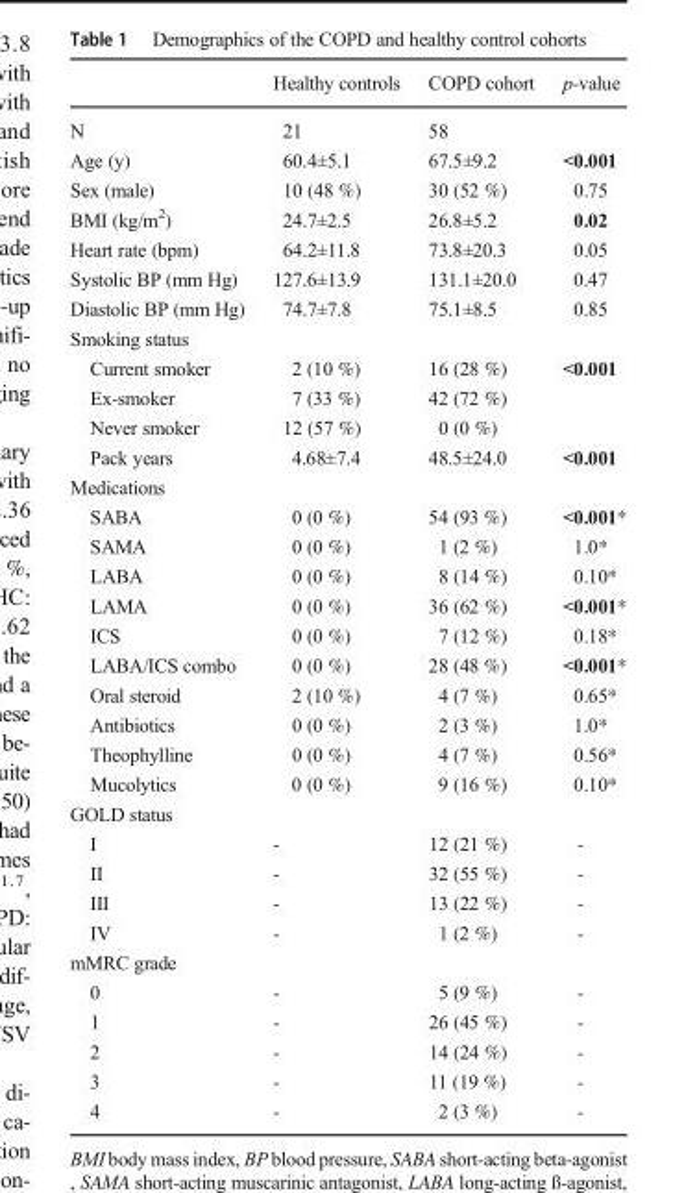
<table><thead><tr><td></td><td>Healthy controls</td><td>COPD cohort</td><td>p-value</td></tr></thead><tbody><tr><td>N</td><td>21</td><td>58</td><td></td></tr><tr><td>Age (y)</td><td>60.4±5.1</td><td>67.5±9.2</td><td>&lt;0.001</td></tr><tr><td>Sex (male)</td><td>10 (48 %)</td><td>30 (52 %)</td><td>0.75</td></tr><tr><td>BMI (kg/m<sup>2</sup>)</td><td>24.7±2.5</td><td>26.8±5.2</td><td>0.02</td></tr><tr><td>Heart rate (bpm)</td><td>64.2±11.8</td><td>73.8±20.3</td><td>0.05</td></tr><tr><td>Systolic BP (mm Hg)</td><td>127.6±13.9</td><td>131.1±20.0</td><td>0.47</td></tr><tr><td>Diastolic BP (mm Hg)</td><td>74.7±7.8</td><td>75.1±8.5</td><td>0.85</td></tr><tr><td colspan="4">Smoking status</td></tr><tr><td>Current smoker</td><td>2 (10 %)</td><td>16 (28 %)</td><td>&lt;0.001</td></tr><tr><td>Ex-smoker</td><td>7 (33 %)</td><td>42 (72 %)</td><td></td></tr><tr><td>Never smoker</td><td>12 (57 %)</td><td>0 (0 %)</td><td></td></tr><tr><td>Pack years</td><td>4.68±7.4</td><td>48.5±24.0</td><td>&lt;0.001</td></tr><tr><td colspan="4">Medications</td></tr><tr><td>SABA</td><td>0 (0 %)</td><td>54 (93 %)</td><td>&lt;0.001*</td></tr><tr><td>SAMA</td><td>0 (0 %)</td><td>1 (2 %)</td><td>1.0*</td></tr><tr><td>LABA</td><td>0 (0 %)</td><td>8 (14 %)</td><td>0.10*</td></tr><tr><td>LAMA</td><td>0 (0 %)</td><td>36 (62 %)</td><td>&lt;0.001*</td></tr><tr><td>ICS</td><td>0 (0 %)</td><td>7 (12 %)</td><td>0.18*</td></tr><tr><td>LABA/ICS combo</td><td>0 (0 %)</td><td>28 (48 %)</td><td>&lt;0.001*</td></tr><tr><td>Oral steroid</td><td>2 (10 %)</td><td>4 (7 %)</td><td>0.65*</td></tr><tr><td>Antibiotics</td><td>0 (0 %)</td><td>2 (3 %)</td><td>1.0*</td></tr><tr><td>Theophylline</td><td>0 (0 %)</td><td>4 (7 %)</td><td>0.56*</td></tr><tr><td>Mucolytics</td><td>0 (0 %)</td><td>9 (16 %)</td><td>0.10*</td></tr><tr><td colspan="4">GOLD status</td></tr><tr><td>I</td><td>-</td><td>12 (21 %)</td><td>-</td></tr><tr><td>II</td><td>-</td><td>32 (55 %)</td><td>-</td></tr><tr><td>III</td><td>-</td><td>13 (22 %)</td><td>-</td></tr><tr><td>IV</td><td>-</td><td>1 (2 %)</td><td>-</td></tr><tr><td colspan="4">mMRC grade</td></tr><tr><td>0</td><td>-</td><td>5 (9 %)</td><td>-</td></tr><tr><td>1</td><td>-</td><td>26 (45 %)</td><td>-</td></tr><tr><td>2</td><td>-</td><td>14 (24 %)</td><td>-</td></tr><tr><td>3</td><td>-</td><td>11 (19 %)</td><td>-</td></tr><tr><td>4</td><td>-</td><td>2 (3 %)</td><td>-</td></tr></tbody></table>